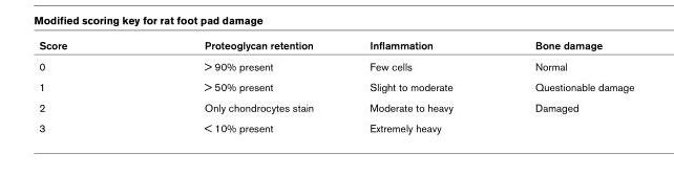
<table><thead><tr><td>Score</td><td>Proteoglycan retention</td><td>Inflammation</td><td>Bone damage</td></tr></thead><tbody><tr><td>0</td><td>&gt; 90% present</td><td>Few cells</td><td>Normal</td></tr><tr><td>1</td><td>&gt; 50% present</td><td>Slight to moderate</td><td>Questionable damage</td></tr><tr><td>2</td><td>Only chondrocytes stain</td><td>Moderate to heavy</td><td>Damaged</td></tr><tr><td>3</td><td>&lt; 10% present</td><td>Extremely heavy</td><td></td></tr></tbody></table>